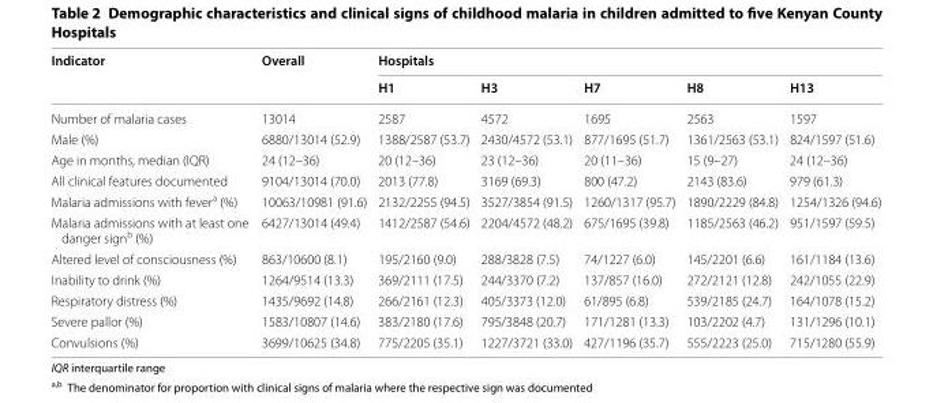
<table><thead><tr><td rowspan="2">Indicator</td><td rowspan="2">Overall</td><td colspan="5">Hospitals</td></tr><tr><td>H1</td><td>H3</td><td>H7</td><td>H8</td><td>H13</td></tr></thead><tbody><tr><td>Number of malaria cases</td><td>13014</td><td>2587</td><td>4572</td><td>1695</td><td>2563</td><td>1597</td></tr><tr><td>Male (%)</td><td>6880/13014 (52.9)</td><td>1388/2587 (53.7)</td><td>2430/4572 (53.1)</td><td>877/1695 (51.7)</td><td>1361/2563 (53.1)</td><td>824/1597 (51.6)</td></tr><tr><td>Age in months, median (IQR)</td><td>24 (12–36)</td><td>20 (12–36)</td><td>23 (12–36)</td><td>20 (11–36)</td><td>15 (9–27)</td><td>24 (12–36)</td></tr><tr><td>All clinical features documented</td><td>9104/13014 (70.0)</td><td>2013 (77.8)</td><td>3169 (69.3)</td><td>800 (47.2)</td><td>2143 (83.6)</td><td>979 (61.3)</td></tr><tr><td>Malaria admissions with fever<sup>a</sup> (%)</td><td>10063/10981 (91.6)</td><td>2132/2255 (94.5)</td><td>3527/3854 (91.5)</td><td>1260/1317 (95.7)</td><td>1890/2229 (84.8)</td><td>1254/1326 (94.6)</td></tr><tr><td>Malaria admissions with at least one danger sign<sup>b</sup> (%)</td><td>6427/13014 (49.4)</td><td>1412/2587 (54.6)</td><td>2204/4572 (48.2)</td><td>675/1695 (39.8)</td><td>1185/2563 (46.2)</td><td>951/1597 (59.5)</td></tr><tr><td>Altered level of consciousness (%)</td><td>863/10600 (8.1)</td><td>195/2160 (9.0)</td><td>288/3828 (7.5)</td><td>74/1227 (6.0)</td><td>145/2201 (6.6)</td><td>161/1184 (13.6)</td></tr><tr><td>Inability to drink (%)</td><td>1264/9514 (13.3)</td><td>369/2111 (17.5)</td><td>244/3370 (7.2)</td><td>137/857 (16.0)</td><td>272/2121 (12.8)</td><td>242/1055 (22.9)</td></tr><tr><td>Respiratory distress (%)</td><td>1435/9692 (14.8)</td><td>266/2161 (12.3)</td><td>405/3373 (12.0)</td><td>61/895 (6.8)</td><td>539/2185 (24.7)</td><td>164/1078 (15.2)</td></tr><tr><td>Severe pallor (%)</td><td>1583/10807 (14.6)</td><td>383/2180 (17.6)</td><td>795/3848 (20.7)</td><td>171/1281 (13.3)</td><td>103/2202 (4.7)</td><td>131/1296 (10.1)</td></tr><tr><td>Convulsions (%)</td><td>3699/10625 (34.8)</td><td>775/2205 (35.1)</td><td>1227/3721 (33.0)</td><td>427/1196 (35.7)</td><td>555/2223 (25.0)</td><td>715/1280 (55.9)</td></tr></tbody></table>